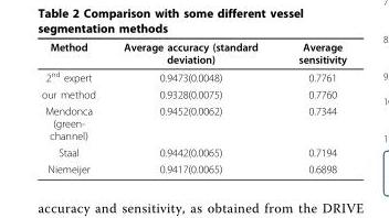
<table><thead><tr><td>Method</td><td>Average accuracy (standard deviation)</td><td>Average sensitivity</td></tr></thead><tbody><tr><td>2<sup>nd</sup> expert</td><td>0.9473(0.0048)</td><td>0.7761</td></tr><tr><td>our method</td><td>0.9328(0.0075)</td><td>0.7760</td></tr><tr><td>Mendonca (green- channel)</td><td>0.9452(0.0062)</td><td>0.7344</td></tr><tr><td>Staal</td><td>0.9442(0.0065)</td><td>0.7194</td></tr><tr><td>Niemeijer</td><td>0.9417(0.0065)</td><td>0.6898</td></tr></tbody></table>